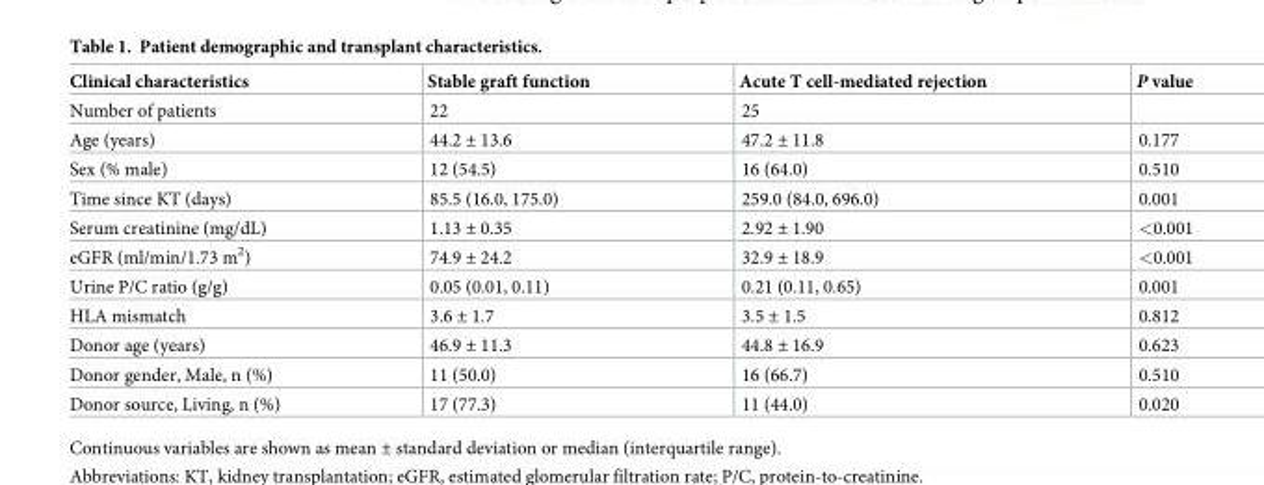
<table><thead><tr><td>Clinical characteristics</td><td>Stable graft function</td><td>Acute T cell-mediated rejection</td><td>P value</td></tr></thead><tbody><tr><td>Number of patients</td><td>22</td><td>25</td><td></td></tr><tr><td>Age (years)</td><td>44.2 ± 13.6</td><td>47.2 ± 11.8</td><td>0.177</td></tr><tr><td>Sex (% male)</td><td>12 (54.5)</td><td>16 (64.0)</td><td>0.510</td></tr><tr><td>Time since KT (days)</td><td>85.5 (16.0, 175.0)</td><td>259.0 (84.0, 696.0)</td><td>0.001</td></tr><tr><td>Serum creatinine (mg/dL)</td><td>1.13 ± 0.35</td><td>2.92 ± 1.90</td><td>&lt;0.001</td></tr><tr><td>eGFR (ml/min/1.73 m<sup>2</sup>)</td><td>74.9 ± 24.2</td><td>32.9 ± 18.9</td><td>&lt;0.001</td></tr><tr><td>Urine P/C ratio (g/g)</td><td>0.05 (0.01, 0.11)</td><td>0.21 (0.11, 0.65)</td><td>0.001</td></tr><tr><td>HLA mismatch</td><td>3.6 ± 1.7</td><td>3.5 ± 1.5</td><td>0.812</td></tr><tr><td>Donor age (years)</td><td>46.9 ± 11.3</td><td>44.8 ± 16.9</td><td>0.623</td></tr><tr><td>Donor gender, Male, n (%)</td><td>11 (50.0)</td><td>16 (66.7)</td><td>0.510</td></tr><tr><td>Donor source, Living, n (%)</td><td>17 (77.3)</td><td>11 (44.0)</td><td>0.020</td></tr></tbody></table>